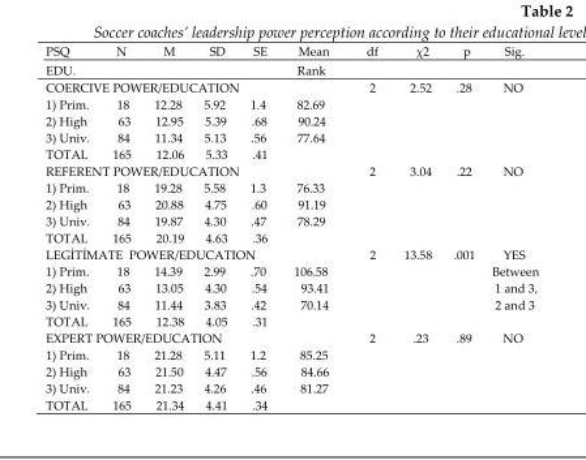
<table><thead><tr><td rowspan="2">PSQ EDU.</td><td rowspan="2">N</td><td rowspan="2">M</td><td rowspan="2">SD</td><td rowspan="2">SE</td><td rowspan="2">Mean Rank</td><td rowspan="2">df</td><td rowspan="2">χ<sup>2</sup></td><td rowspan="2">p</td><td rowspan="2">Sig.</td></tr><tr></tr></thead><tbody><tr><td colspan="5">COERCIVE POWER/EDUCATION</td><td></td><td>2</td><td>2.52</td><td>.28</td><td>NO</td></tr><tr><td>1) Prim.</td><td>18</td><td>12.28</td><td>5.92</td><td>1.4</td><td>82.69</td><td></td><td></td><td></td><td></td></tr><tr><td>2) High</td><td>63</td><td>12.95</td><td>5.39</td><td>.68</td><td>90.24</td><td></td><td></td><td></td><td></td></tr><tr><td>3) Univ.</td><td>84</td><td>11.34</td><td>5.13</td><td>.56</td><td>77.64</td><td></td><td></td><td></td><td></td></tr><tr><td>TOTAL</td><td>165</td><td>12.06</td><td>5.33</td><td>.41</td><td></td><td></td><td></td><td></td><td></td></tr><tr><td colspan="5">REFERENT POWER/EDUCATION</td><td></td><td>2</td><td>3.04</td><td>.22</td><td>NO</td></tr><tr><td>1) Prim.</td><td>18</td><td>19.28</td><td>5.58</td><td>1.3</td><td>76.33</td><td></td><td></td><td></td><td></td></tr><tr><td>2) High</td><td>63</td><td>20.88</td><td>4.75</td><td>.60</td><td>91.19</td><td></td><td></td><td></td><td></td></tr><tr><td>3) Univ.</td><td>84</td><td>19.87</td><td>4.30</td><td>.47</td><td>78.29</td><td></td><td></td><td></td><td></td></tr><tr><td>TOTAL</td><td>165</td><td>20.19</td><td>4.63</td><td>.36</td><td></td><td></td><td></td><td></td><td></td></tr><tr><td colspan="5">LEGİTİMATE POWER/EDUCATION</td><td></td><td>2</td><td>13.58</td><td>.001</td><td>YES</td></tr><tr><td>1) Prim.</td><td>18</td><td>14.39</td><td>2.99</td><td>.70</td><td>106.58</td><td></td><td></td><td></td><td rowspan="3">Between 1 and 3, 2 and 3</td></tr><tr><td>2) High</td><td>63</td><td>13.05</td><td>4.30</td><td>.54</td><td>93.41</td><td></td><td></td><td></td></tr><tr><td>3) Univ.</td><td>84</td><td>11.44</td><td>3.83</td><td>.42</td><td>70.14</td><td></td><td></td><td></td></tr><tr><td>TOTAL</td><td>165</td><td>12.38</td><td>4.05</td><td>.31</td><td></td><td></td><td></td><td></td><td></td></tr><tr><td colspan="5">EXPERT POWER/EDUCATION</td><td></td><td>2</td><td>.23</td><td>.89</td><td>NO</td></tr><tr><td>1) Prim.</td><td>18</td><td>21.28</td><td>5.11</td><td>1.2</td><td>85.25</td><td></td><td></td><td></td><td></td></tr><tr><td>2) High</td><td>63</td><td>21.50</td><td>4.47</td><td>.56</td><td>84.66</td><td></td><td></td><td></td><td></td></tr><tr><td>3) Univ.</td><td>84</td><td>21.23</td><td>4.26</td><td>.46</td><td>81.27</td><td></td><td></td><td></td><td></td></tr><tr><td>TOTAL</td><td>165</td><td>21.34</td><td>4.41</td><td>.34</td><td></td><td></td><td></td><td></td><td></td></tr></tbody></table>